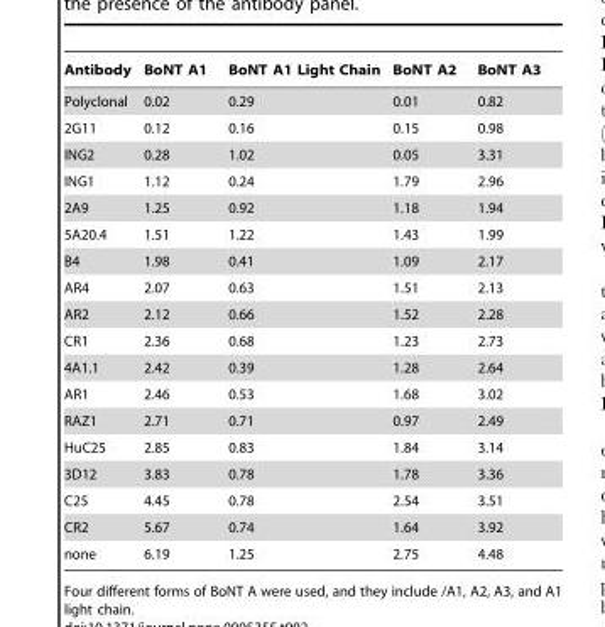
<table><thead><tr><td>Antibody</td><td>BoNT A1</td><td>BoNT A1 Light Chain</td><td>BoNT A2</td><td>BoNT A3</td></tr></thead><tbody><tr><td>Polyclonal</td><td>0.02</td><td>0.29</td><td>0.01</td><td>0.82</td></tr><tr><td>2G11</td><td>0.12</td><td>0.16</td><td>0.15</td><td>0.98</td></tr><tr><td>ING2</td><td>0.28</td><td>1.02</td><td>0.05</td><td>3.31</td></tr><tr><td>ING1</td><td>1.12</td><td>0.24</td><td>1.79</td><td>2.96</td></tr><tr><td>2A9</td><td>1.25</td><td>0.92</td><td>1.18</td><td>1.94</td></tr><tr><td>5A20.4</td><td>1.51</td><td>1.22</td><td>1.43</td><td>1.99</td></tr><tr><td>B4</td><td>1.98</td><td>0.41</td><td>1.09</td><td>2.17</td></tr><tr><td>AR4</td><td>2.07</td><td>0.63</td><td>1.51</td><td>2.13</td></tr><tr><td>AR2</td><td>2.12</td><td>0.66</td><td>1.52</td><td>2.28</td></tr><tr><td>CR1</td><td>2.36</td><td>0.68</td><td>1.23</td><td>2.73</td></tr><tr><td>4A1.1</td><td>2.42</td><td>0.39</td><td>1.28</td><td>2.64</td></tr><tr><td>AR1</td><td>2.46</td><td>0.53</td><td>1.68</td><td>3.02</td></tr><tr><td>RAZ1</td><td>2.71</td><td>0.71</td><td>0.97</td><td>2.49</td></tr><tr><td>HuC25</td><td>2.85</td><td>0.83</td><td>1.84</td><td>3.14</td></tr><tr><td>3D12</td><td>3.83</td><td>0.78</td><td>1.78</td><td>3.36</td></tr><tr><td>C25</td><td>4.45</td><td>0.78</td><td>2.54</td><td>3.51</td></tr><tr><td>CR2</td><td>5.67</td><td>0.74</td><td>1.64</td><td>3.92</td></tr><tr><td>none</td><td>6.19</td><td>1.25</td><td>2.75</td><td>4.48</td></tr></tbody></table>